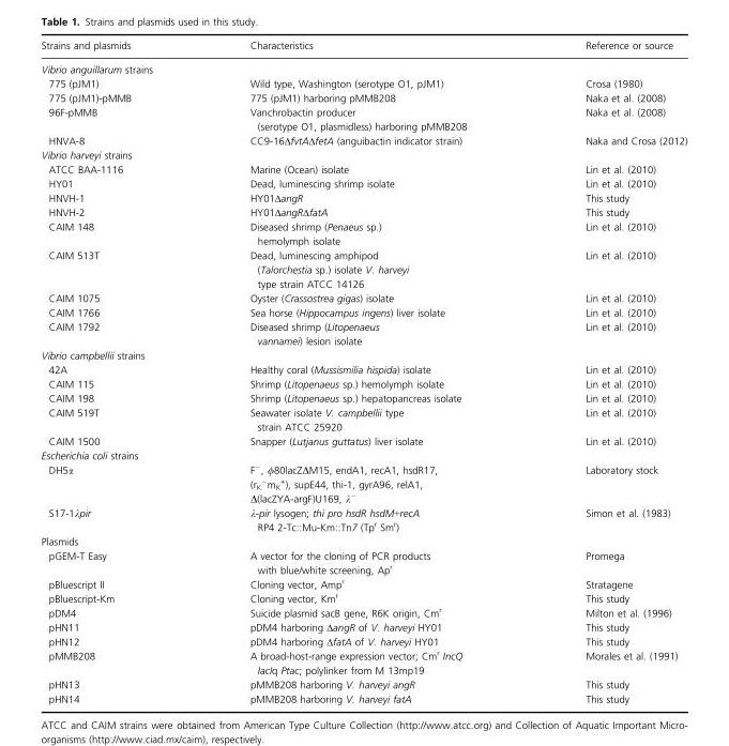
<table><thead><tr><td>Strains and plasmids</td><td>Characteristics</td><td>Reference or source</td></tr></thead><tbody><tr><td colspan="3">Vibrio anguillarum strains</td></tr><tr><td>775 (pJM1)</td><td>Wild type, Washington (serotype O1, pJM1)</td><td>Crosa (1980)</td></tr><tr><td>775 (pJM1)-pMMB</td><td>775 (pJM1) harboring pMMB208</td><td>Naka et al. (2008)</td></tr><tr><td>96F-pMMB</td><td>Vanchrobactin producer (serotype O1, plasmidless) harboring pMMB208</td><td>Naka et al. (2008)</td></tr><tr><td>HNVA-8</td><td>CC9-16ΔfvtAΔfetA (anguibactin indicator strain)</td><td>Naka and Crosa (2012)</td></tr><tr><td colspan="3">Vibrio harveyi strains</td></tr><tr><td>ATCC BAA-1116</td><td>Marine (Ocean) isolate</td><td>Lin et al. (2010)</td></tr><tr><td>HY01</td><td>Dead, luminescing shrimp isolate</td><td>Lin et al. (2010)</td></tr><tr><td>HNVH-1</td><td>HY01ΔangR</td><td>This study</td></tr><tr><td>HNVH-2</td><td>HY01ΔangRΔfatA</td><td>This study</td></tr><tr><td>CAIM 148</td><td>Diseased shrimp (Penaeus sp.) hemolymph isolate</td><td>Lin et al. (2010)</td></tr><tr><td>CAIM 513T</td><td>Dead, luminescing amphipod (Talorchestia sp.) isolate V. harveyi type strain ATCC 14126</td><td>Lin et al. (2010)</td></tr><tr><td>CAIM 1075</td><td>Oyster (Crassostrea gigas) isolate</td><td>Lin et al. (2010)</td></tr><tr><td>CAIM 1766</td><td>Sea horse (Hippocampus ingens) liver isolate</td><td>Lin et al. (2010)</td></tr><tr><td>CAIM 1792</td><td>Diseased shrimp (Litopenaeus vannamei) lesion isolate</td><td>Lin et al. (2010)</td></tr><tr><td colspan="3">Vibrio campbellii strains</td></tr><tr><td>42A</td><td>Healthy coral (Mussismilia hispida) isolate</td><td>Lin et al. (2010)</td></tr><tr><td>CAIM 115</td><td>Shrimp (Litopenaeus sp.) hemolymph isolate</td><td>Lin et al. (2010)</td></tr><tr><td>CAIM 198</td><td>Shrimp (Litopenaeus sp.) hepatopancreas isolate</td><td>Lin et al. (2010)</td></tr><tr><td>CAIM 519T</td><td>Seawater isolate V. campbellii type strain ATCC 25920</td><td>Lin et al. (2010)</td></tr><tr><td>CAIM 1500</td><td>Snapper (Lutjanus guttatus) liver isolate</td><td>Lin et al. (2010)</td></tr><tr><td colspan="3">Escherichia coli strains</td></tr><tr><td>DH5α</td><td>F�, /80lacZDM15, endA1, recA1, hsdR17, (rK �mK +), supE44, thi-1, gyrA96, relA1, D(lacZYA-argF)U169, k�</td><td>Laboratory stock</td></tr><tr><td>S17-1λpir</td><td>λ-pir lysogen; thi pro hsdR hsdM+recA RP4 2-Tc::Mu-Km::Tn7 (Tp<sup>r</sup> Sm<sup>r</sup>)</td><td>Simon et al. (1983)</td></tr><tr><td colspan="3">Plasmids</td></tr><tr><td>pGEM-T Easy</td><td>A vector for the cloning of PCR products with blue/white screening, Ap<sup>r</sup></td><td>Promega</td></tr><tr><td>pBluescript II</td><td>Cloning vector, Amp<sup>r</sup></td><td>Stratagene</td></tr><tr><td>pBluescript-Km</td><td>Cloning vector, Km<sup>r</sup></td><td>This study</td></tr><tr><td>pDM4</td><td>Suicide plasmid sacB gene, R6K origin, Cm<sup>r</sup></td><td>Milton et al. (1996)</td></tr><tr><td>pHN11</td><td>pDM4 harboring ΔangR of V. harveyi HY01</td><td>This study</td></tr><tr><td>pHN12</td><td>pDM4 harboring ΔfatA of V. harveyi HY01</td><td>This study</td></tr><tr><td>pMMB208</td><td>A broad-host-range expression vector; Cm<sup>r</sup> IncQ lacIq Ptac; polylinker from M 13mp19</td><td>Morales et al. (1991)</td></tr><tr><td>pHN13</td><td>pMMB208 harboring V. harveyi angR</td><td>This study</td></tr><tr><td>pHN14</td><td>pMMB208 harboring V. harveyi fatA</td><td>This study</td></tr></tbody></table>